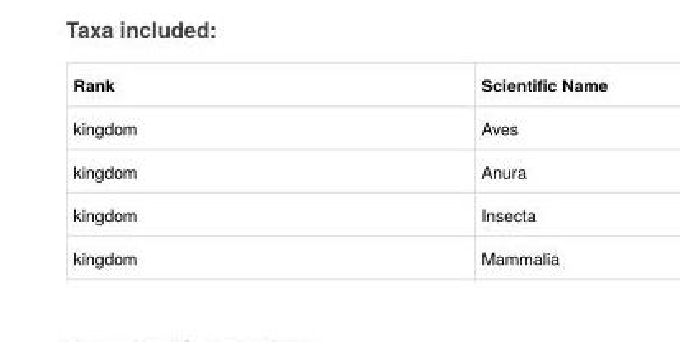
<table><thead><tr><td>Rank</td><td>Scientific Name</td></tr></thead><tbody><tr><td>kingdom</td><td>Aves</td></tr><tr><td>kingdom</td><td>Anura</td></tr><tr><td>kingdom</td><td>Insecta</td></tr><tr><td>kingdom</td><td>Mammalia</td></tr></tbody></table>